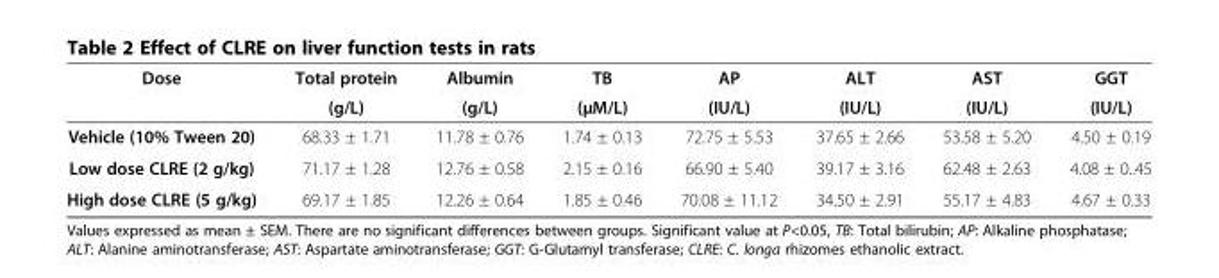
<table><thead><tr><td rowspan="2">Dose</td><td rowspan="2">Total protein (g/L)</td><td rowspan="2">Albumin (g/L)</td><td rowspan="2">TB (µM/L)</td><td rowspan="2">AP (IU/L)</td><td rowspan="2">ALT (IU/L)</td><td rowspan="2">AST (IU/L)</td><td rowspan="2">GGT (IU/L)</td></tr><tr></tr></thead><tbody><tr><td>Vehicle (10% Tween 20)</td><td>68.33 ± 1.71</td><td>11.78 ± 0.76</td><td>1.74 ± 0.13</td><td>72.75 ± 5.53</td><td>37.65 ± 2.66</td><td>53.58 ± 5.20</td><td>4.50 ± 0.19</td></tr><tr><td>Low dose CLRE (2 g/kg)</td><td>71.17 ± 1.28</td><td>12.76 ± 0.58</td><td>2.15 ± 0.16</td><td>66.90 ± 5.40</td><td>39.17 ± 3.16</td><td>62.48 ± 2.63</td><td>4.08 ± 0..45</td></tr><tr><td>High dose CLRE (5 g/kg)</td><td>69.17 ± 1.85</td><td>12.26 ± 0.64</td><td>1.85 ± 0.46</td><td>70.08 ± 11.12</td><td>34.50 ± 2.91</td><td>55.17 ± 4.83</td><td>4.67 ± 0.33</td></tr></tbody></table>